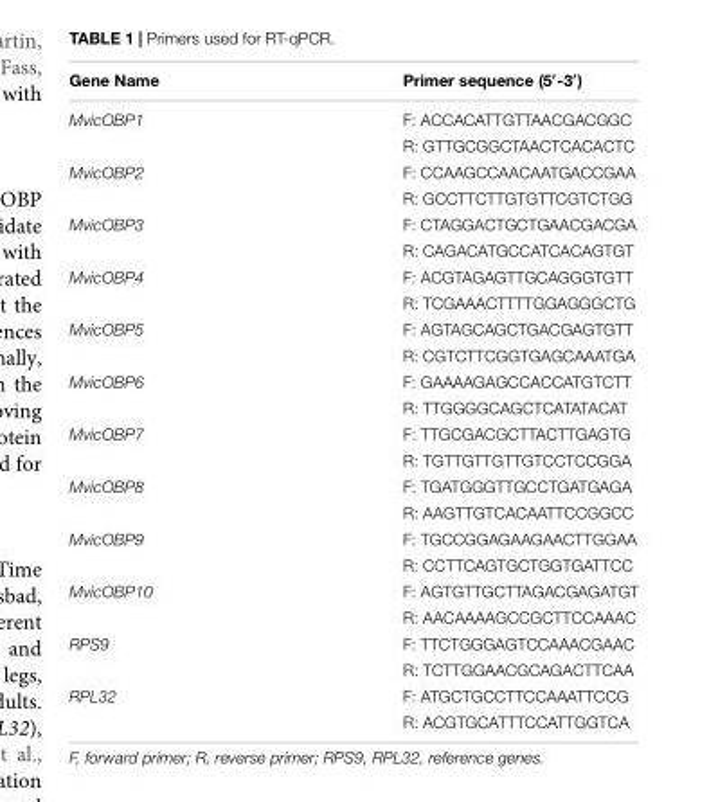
<table><thead><tr><td>Gene Name</td><td>Primer sequence (5′-3′)</td></tr></thead><tbody><tr><td rowspan="2">MvicOBP1</td><td>F: ACCACATTGTTAACGACGGC</td></tr><tr><td>R: GTTGCGGCTAACTCACACTC</td></tr><tr><td rowspan="2">MvicOBP2</td><td>F: CCAAGCCAACAATGACCGAA</td></tr><tr><td>R: GCCTTCTTGTGTTCGTCTGG</td></tr><tr><td rowspan="2">MvicOBP3</td><td>F: CTAGGACTGCTGAACGACGA</td></tr><tr><td>R: CAGACATGCCATCACAGTGT</td></tr><tr><td rowspan="2">MvicOBP4</td><td>F: ACGTAGAGTTGCAGGGTGTT</td></tr><tr><td>R: TCGAAACTTTTGGAGGGCTG</td></tr><tr><td rowspan="2">MvicOBP5</td><td>F: AGTAGCAGCTGACGAGTGTT</td></tr><tr><td>R: CGTCTTCGGTGAGCAAATGA</td></tr><tr><td rowspan="2">MvicOBP6</td><td>F: GAAAAGAGCCACCATGTCTT</td></tr><tr><td>R: TTGGGGCAGCTCATATACAT</td></tr><tr><td rowspan="2">MvicOBP7</td><td>F: TTGCGACGCTTACTTGAGTG</td></tr><tr><td>R: TGTTGTTGTTGTCCTCCGGA</td></tr><tr><td rowspan="2">MvicOBP8</td><td>F: TGATGGGTTGCCTGATGAGA</td></tr><tr><td>R: AAGTTGTCACAATTCCGGCC</td></tr><tr><td rowspan="2">MvicOBP9</td><td>F: TGCCGGAGAAGAACTTGGAA</td></tr><tr><td>R: CCTTCAGTGCTGGTGATTCC</td></tr><tr><td rowspan="2">MvicOBP10</td><td>F: AGTGTTGCTTAGACGAGATGT</td></tr><tr><td>R: AACAAAAGCCGCTTCCAAAC</td></tr><tr><td rowspan="2">RPS9</td><td>F: TTCTGGGAGTCCAAACGAAC</td></tr><tr><td>R: TCTTGGAACGCAGACTTCAA</td></tr><tr><td rowspan="2">RPL32</td><td>F: ATGCTGCCTTCCAAATTCCG</td></tr><tr><td>R: ACGTGCATTTCCATTGGTCA</td></tr></tbody></table>